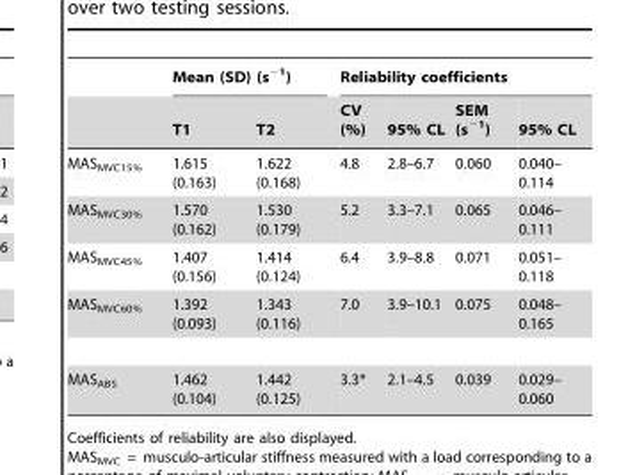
<table><thead><tr><td rowspan="2"></td><td colspan="2">Mean (SD) (s<sup>−1</sup>)</td><td colspan="4">Reliability coefficients</td></tr><tr><td>T1</td><td>T2</td><td>CV (%)</td><td>95% CL</td><td>SEM (s<sup>−1</sup>)</td><td>95% CL</td></tr></thead><tbody><tr><td>MAS<sub>MVC15%</sub></td><td>1.615 (0.163)</td><td>1.622 (0.168)</td><td>4.8</td><td>2.8–6.7</td><td>0.060</td><td>0.040– 0.114</td></tr><tr><td>MAS<sub>MVC30%</sub></td><td>1.570 (0.162)</td><td>1.530 (0.179)</td><td>5.2</td><td>3.3–7.1</td><td>0.065</td><td>0.046– 0.111</td></tr><tr><td>MAS<sub>MVC45%</sub></td><td>1.407 (0.156)</td><td>1.414 (0.124)</td><td>6.4</td><td>3.9–8.8</td><td>0.071</td><td>0.051– 0.118</td></tr><tr><td>MAS<sub>MVC60%</sub></td><td>1.392 (0.093)</td><td>1.343 (0.116)</td><td>7.0</td><td>3.9–10.1</td><td>0.075</td><td>0.048– 0.165</td></tr><tr><td>MAS<sub>ABS</sub></td><td>1.462 (0.104)</td><td>1.442 (0.125)</td><td>3.3*</td><td>2.1–4.5</td><td>0.039</td><td>0.029– 0.060</td></tr></tbody></table>